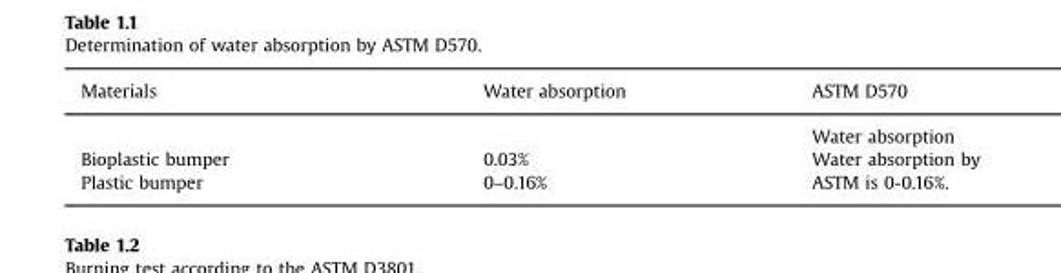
<table><thead><tr><td>Materials</td><td>Water absorption</td><td>ASTM D570</td></tr></thead><tbody><tr><td></td><td></td><td>Water absorption</td></tr><tr><td>Bioplastic bumper</td><td>0.03%</td><td>Water absorption by</td></tr><tr><td>Plastic bumper</td><td>0–0.16%</td><td>ASTM is 0-0.16%.</td></tr></tbody></table>